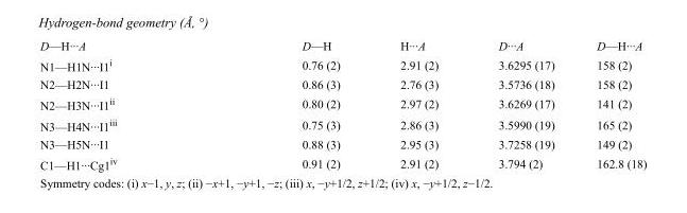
<table><tbody><tr><td>D—H···A</td><td>D—H</td><td>H···A</td><td>D···A</td><td>D—H···A</td></tr><tr><td>N1—H1N···I1<sup>i</sup></td><td>0.76 (2)</td><td>2.91 (2)</td><td>3.6295 (17)</td><td>158 (2)</td></tr><tr><td>N2—H2N···I1</td><td>0.86 (3)</td><td>2.76 (3)</td><td>3.5736 (18)</td><td>158 (2)</td></tr><tr><td>N2—H3N···I1<sup>ii</sup></td><td>0.80 (2)</td><td>2.97 (2)</td><td>3.6269 (17)</td><td>141 (2)</td></tr><tr><td>N3—H4N···I1<sup>iii</sup></td><td>0.75 (3)</td><td>2.86 (3)</td><td>3.5990 (19)</td><td>165 (2)</td></tr><tr><td>N3—H5N···I1</td><td>0.88 (3)</td><td>2.95 (3)</td><td>3.7258 (19)</td><td>149 (2)</td></tr><tr><td>C1—H1···Cg1<sup>iv</sup></td><td>0.91 (2)</td><td>2.91 (2)</td><td>3.794 (2)</td><td>162.8 (18)</td></tr></tbody></table>